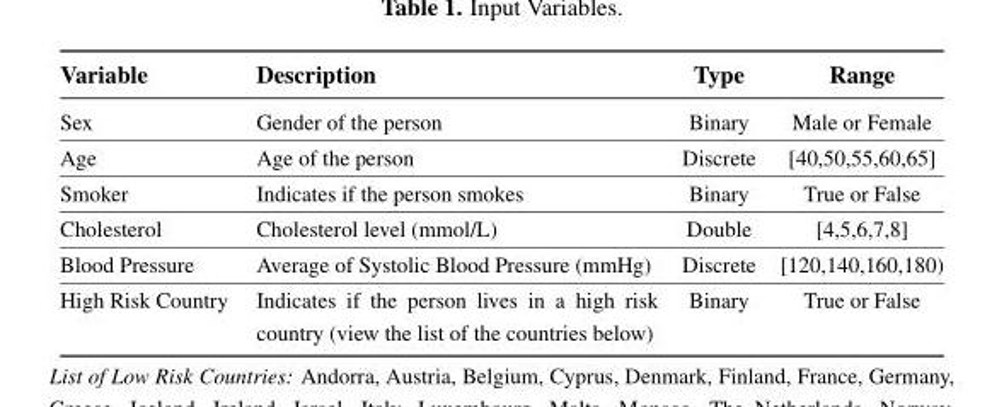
<table><thead><tr><td>Variable</td><td>Description</td><td>Type</td><td>Range</td></tr></thead><tbody><tr><td>Sex</td><td>Gender of the person</td><td>Binary</td><td>Male or Female</td></tr><tr><td>Age</td><td>Age of the person</td><td>Discrete</td><td>[40,50,55,60,65]</td></tr><tr><td>Smoker</td><td>Indicates if the person smokes</td><td>Binary</td><td>True or False</td></tr><tr><td>Cholesterol</td><td>Cholesterol level (mmol/L)</td><td>Double</td><td>[4,5,6,7,8]</td></tr><tr><td>Blood Pressure</td><td>Average of Systolic Blood Pressure (mmHg)</td><td>Discrete</td><td>[120,140,160,180)</td></tr><tr><td>High Risk Country</td><td>Indicates if the person lives in a high risk country (view the list of the countries below)</td><td>Binary</td><td>True or False</td></tr></tbody></table>